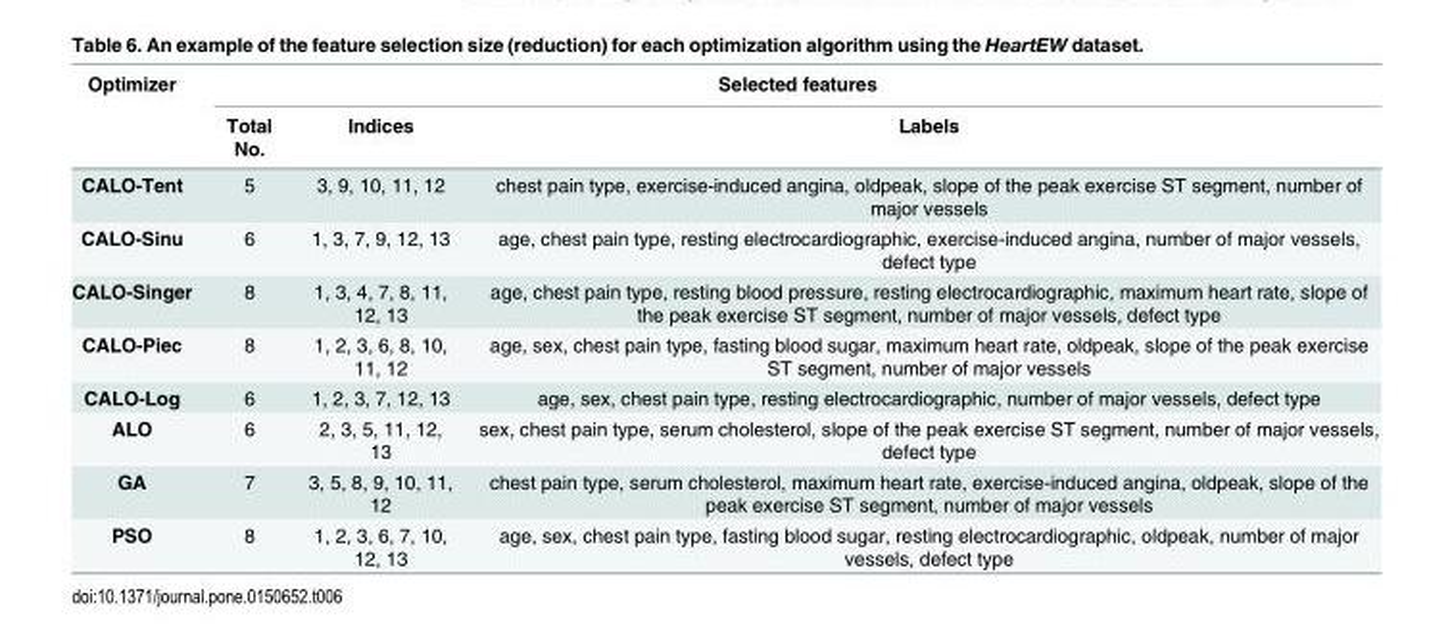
<table><thead><tr><td rowspan="2">Optimizer</td><td colspan="3">Selected features</td></tr><tr><td>Total No.</td><td>Indices</td><td>Labels</td></tr></thead><tbody><tr><td>CALO-Tent</td><td>5</td><td>3, 9, 10, 11, 12</td><td>chest pain type, exercise-induced angina, oldpeak, slope of the peak exercise ST segment, number of major vessels</td></tr><tr><td>CALO-Sinu</td><td>6</td><td>1, 3, 7, 9, 12, 13</td><td>age, chest pain type, resting electrocardiographic, exercise-induced angina, number of major vessels, defect type</td></tr><tr><td>CALO-Singer</td><td>8</td><td>1, 3, 4, 7, 8, 11, 12, 13</td><td>age, chest pain type, resting blood pressure, resting electrocardiographic, maximum heart rate, slope of the peak exercise ST segment, number of major vessels, defect type</td></tr><tr><td>CALO-Piec</td><td>8</td><td>1, 2, 3, 6, 8, 10, 11, 12</td><td>age, sex, chest pain type, fasting blood sugar, maximum heart rate, oldpeak, slope of the peak exercise ST segment, number of major vessels</td></tr><tr><td>CALO-Log</td><td>6</td><td>1, 2, 3, 7, 12, 13</td><td>age, sex, chest pain type, resting electrocardiographic, number of major vessels, defect type</td></tr><tr><td>ALO</td><td>6</td><td>2, 3, 5, 11, 12, 13</td><td>sex, chest pain type, serum cholesterol, slope of the peak exercise ST segment, number of major vessels, defect type</td></tr><tr><td>GA</td><td>7</td><td>3, 5, 8, 9, 10, 11, 12</td><td>chest pain type, serum cholesterol, maximum heart rate, exercise-induced angina, oldpeak, slope of the peak exercise ST segment, number of major vessels</td></tr><tr><td>PSO</td><td>8</td><td>1, 2, 3, 6, 7, 10, 12, 13</td><td>age, sex, chest pain type, fasting blood sugar, resting electrocardiographic, oldpeak, number of major vessels, defect type</td></tr></tbody></table>